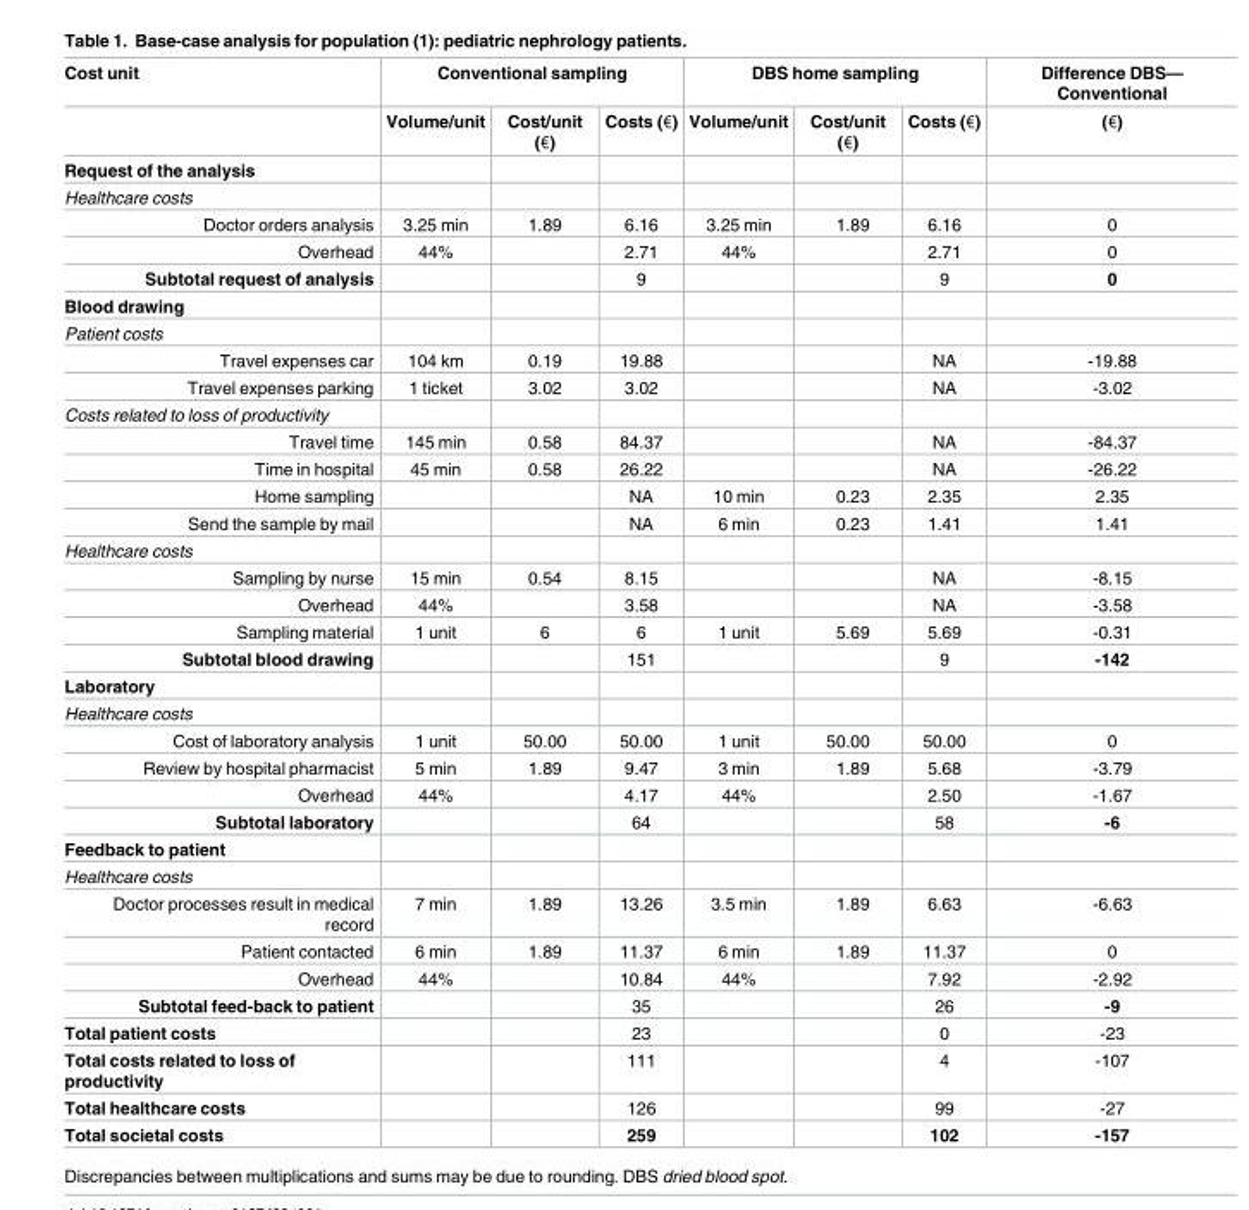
<table><thead><tr><td rowspan="2">Cost unit</td><td colspan="3">Conventional sampling</td><td colspan="3">DBS home sampling</td><td rowspan="2">Difference DBS— Conventional (€)</td></tr><tr><td>Volume/unit</td><td>Cost/unit (€)</td><td>Costs (€)</td><td>Volume/unit</td><td>Cost/unit (€)</td><td>Costs (€)</td></tr></thead><tbody><tr><td colspan="8">Request of the analysis</td></tr><tr><td colspan="8">Healthcare costs</td></tr><tr><td>Doctor orders analysis</td><td>3.25 min</td><td>1.89</td><td>6.16</td><td>3.25 min</td><td>1.89</td><td>6.16</td><td>0</td></tr><tr><td>Overhead</td><td>44%</td><td></td><td>2.71</td><td>44%</td><td></td><td>2.71</td><td>0</td></tr><tr><td>Subtotal request of analysis</td><td></td><td></td><td>9</td><td></td><td></td><td>9</td><td>0</td></tr><tr><td colspan="8">Blood drawing</td></tr><tr><td colspan="8">Patient costs</td></tr><tr><td>Travel expenses car</td><td>104 km</td><td>0.19</td><td>19.88</td><td></td><td></td><td>NA</td><td>-19.88</td></tr><tr><td>Travel expenses parking</td><td>1 ticket</td><td>3.02</td><td>3.02</td><td></td><td></td><td>NA</td><td>-3.02</td></tr><tr><td colspan="8">Costs related to loss of productivity</td></tr><tr><td>Travel time</td><td>145 min</td><td>0.58</td><td>84.37</td><td></td><td></td><td>NA</td><td>-84.37</td></tr><tr><td>Time in hospital</td><td>45 min</td><td>0.58</td><td>26.22</td><td></td><td></td><td>NA</td><td>-26.22</td></tr><tr><td>Home sampling</td><td></td><td></td><td>NA</td><td>10 min</td><td>0.23</td><td>2.35</td><td>2.35</td></tr><tr><td>Send the sample by mail</td><td></td><td></td><td>NA</td><td>6 min</td><td>0.23</td><td>1.41</td><td>1.41</td></tr><tr><td colspan="8">Healthcare costs</td></tr><tr><td>Sampling by nurse</td><td>15 min</td><td>0.54</td><td>8.15</td><td></td><td></td><td>NA</td><td>-8.15</td></tr><tr><td>Overhead</td><td>44%</td><td></td><td>3.58</td><td></td><td></td><td>NA</td><td>-3.58</td></tr><tr><td>Sampling material</td><td>1 unit</td><td>6</td><td>6</td><td>1 unit</td><td>5.69</td><td>5.69</td><td>-0.31</td></tr><tr><td>Subtotal blood drawing</td><td></td><td></td><td>151</td><td></td><td></td><td>9</td><td>-142</td></tr><tr><td colspan="8">Laboratory</td></tr><tr><td colspan="8">Healthcare costs</td></tr><tr><td>Cost of laboratory analysis</td><td>1 unit</td><td>50.00</td><td>50.00</td><td>1 unit</td><td>50.00</td><td>50.00</td><td>0</td></tr><tr><td>Review by hospital pharmacist</td><td>5 min</td><td>1.89</td><td>9.47</td><td>3 min</td><td>1.89</td><td>5.68</td><td>-3.79</td></tr><tr><td>Overhead</td><td>44%</td><td></td><td>4.17</td><td>44%</td><td></td><td>2.50</td><td>-1.67</td></tr><tr><td>Subtotal laboratory</td><td></td><td></td><td>64</td><td></td><td></td><td>58</td><td>-6</td></tr><tr><td colspan="8">Feedback to patient</td></tr><tr><td colspan="8">Healthcare costs</td></tr><tr><td>Doctor processes result in medical record</td><td>7 min</td><td>1.89</td><td>13.26</td><td>3.5 min</td><td>1.89</td><td>6.63</td><td>-6.63</td></tr><tr><td>Patient contacted</td><td>6 min</td><td>1.89</td><td>11.37</td><td>6 min</td><td>1.89</td><td>11.37</td><td>0</td></tr><tr><td>Overhead</td><td>44%</td><td></td><td>10.84</td><td>44%</td><td></td><td>7.92</td><td>-2.92</td></tr><tr><td>Subtotal feed-back to patient</td><td></td><td></td><td>35</td><td></td><td></td><td>26</td><td>-9</td></tr><tr><td>Total patient costs</td><td></td><td></td><td>23</td><td></td><td></td><td>0</td><td>-23</td></tr><tr><td>Total costs related to loss of productivity</td><td></td><td></td><td>111</td><td></td><td></td><td>4</td><td>-107</td></tr><tr><td>Total healthcare costs</td><td></td><td></td><td>126</td><td></td><td></td><td>99</td><td>-27</td></tr><tr><td>Total societal costs</td><td></td><td></td><td>259</td><td></td><td></td><td>102</td><td>-157</td></tr></tbody></table>